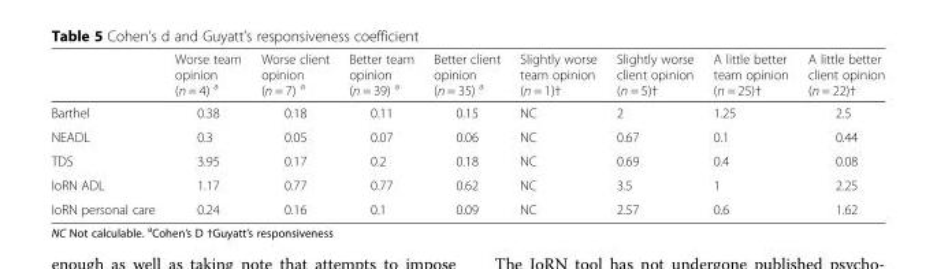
<table><thead><tr><td></td><td>Worse team opinion (n = 4) <sup>a</sup></td><td>Worse client opinion (n = 7) <sup>a</sup></td><td>Better team opinion (n = 39) <sup>a</sup></td><td>Better client opinion (n = 35) <sup>a</sup></td><td>Slightly worse team opinion (n = 1)†</td><td>Slightly worse client opinion (n = 5)†</td><td>A little better team opinion (n = 25)†</td><td>A little better client opinion (n = 22)†</td></tr></thead><tbody><tr><td>Barthel</td><td>0.38</td><td>0.18</td><td>0.11</td><td>0.15</td><td>NC</td><td>2</td><td>1.25</td><td>2.5</td></tr><tr><td>NEADL</td><td>0.3</td><td>0.05</td><td>0.07</td><td>0.06</td><td>NC</td><td>0.67</td><td>0.1</td><td>0.44</td></tr><tr><td>TDS</td><td>3.95</td><td>0.17</td><td>0.2</td><td>0.18</td><td>NC</td><td>0.69</td><td>0.4</td><td>0.08</td></tr><tr><td>IoRN ADL</td><td>1.17</td><td>0.77</td><td>0.77</td><td>0.62</td><td>NC</td><td>3.5</td><td>1</td><td>2.25</td></tr><tr><td>IoRN personal care</td><td>0.24</td><td>0.16</td><td>0.1</td><td>0.09</td><td>NC</td><td>2.57</td><td>0.6</td><td>1.62</td></tr></tbody></table>